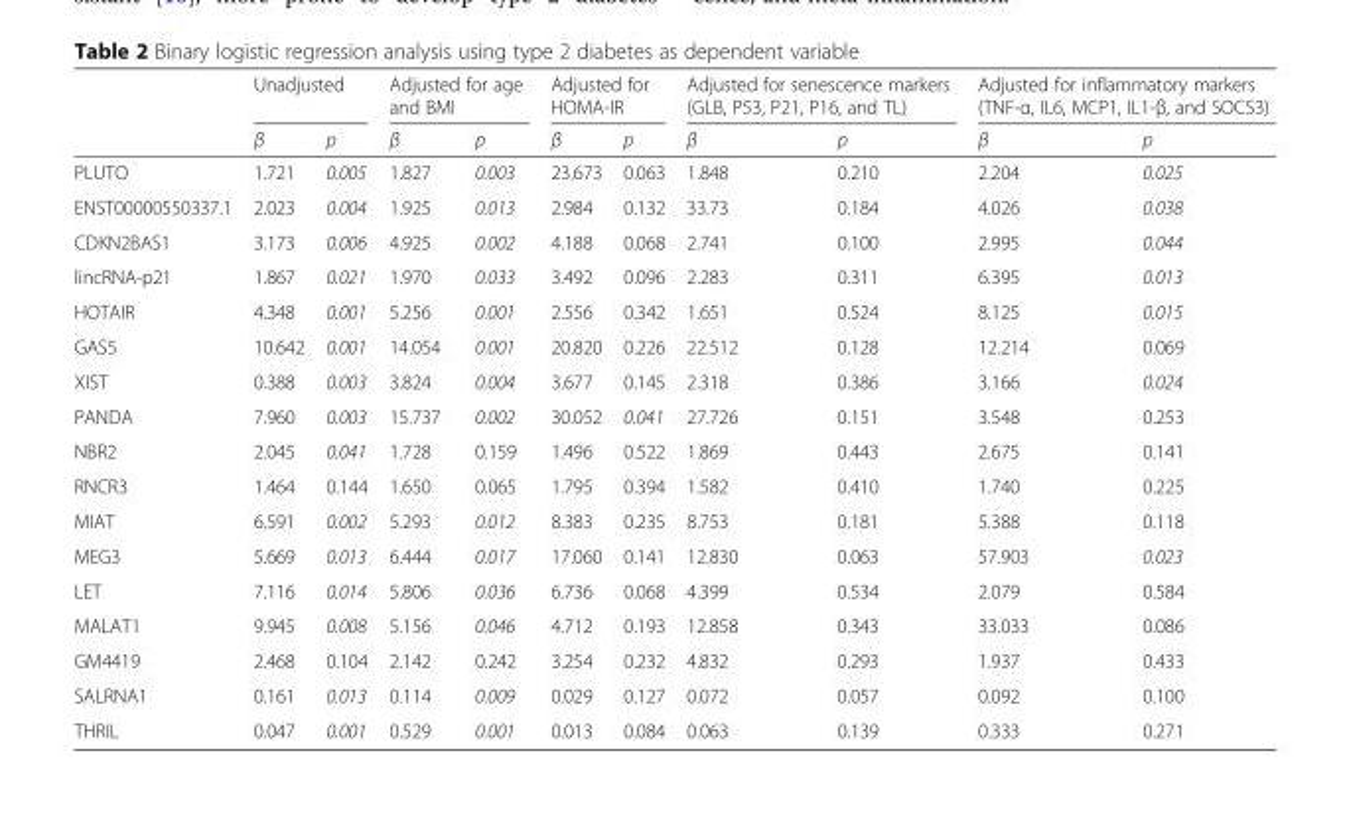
<table><thead><tr><td rowspan="2"></td><td colspan="2">Unadjusted</td><td colspan="2">Adjusted for age and BMI</td><td colspan="2">Adjusted for HOMA-IR</td><td colspan="2">Adjusted for senescence markers (GLB, P53, P21, P16, and TL)</td><td colspan="2">Adjusted for inflammatory markers (TNF-α, IL6, MCP1, IL1-β, and SOCS3)</td></tr><tr><td>β</td><td>p</td><td>β</td><td>p</td><td>β</td><td>p</td><td>β</td><td>p</td><td>β</td><td>p</td></tr></thead><tbody><tr><td>PLUTO</td><td>1.721</td><td>0.005</td><td>1.827</td><td>0.003</td><td>23.673</td><td>0.063</td><td>1.848</td><td>0.210</td><td>2.204</td><td>0.025</td></tr><tr><td>ENST00000550337.1</td><td>2.023</td><td>0.004</td><td>1.925</td><td>0.013</td><td>2.984</td><td>0.132</td><td>33.73</td><td>0.184</td><td>4.026</td><td>0.038</td></tr><tr><td>CDKN2BAS1</td><td>3.173</td><td>0.006</td><td>4.925</td><td>0.002</td><td>4.188</td><td>0.068</td><td>2.741</td><td>0.100</td><td>2.995</td><td>0.044</td></tr><tr><td>lincRNA-p21</td><td>1.867</td><td>0.021</td><td>1.970</td><td>0.033</td><td>3.492</td><td>0.096</td><td>2.283</td><td>0.311</td><td>6.395</td><td>0.013</td></tr><tr><td>HOTAIR</td><td>4.348</td><td>0.001</td><td>5.256</td><td>0.001</td><td>2.556</td><td>0.342</td><td>1.651</td><td>0.524</td><td>8.125</td><td>0.015</td></tr><tr><td>GAS5</td><td>10.642</td><td>0.001</td><td>14.054</td><td>0.001</td><td>20.820</td><td>0.226</td><td>22.512</td><td>0.128</td><td>12.214</td><td>0.069</td></tr><tr><td>XIST</td><td>0.388</td><td>0.003</td><td>3.824</td><td>0.004</td><td>3.677</td><td>0.145</td><td>2.318</td><td>0.386</td><td>3.166</td><td>0.024</td></tr><tr><td>PANDA</td><td>7.960</td><td>0.003</td><td>15.737</td><td>0.002</td><td>30.052</td><td>0.041</td><td>27.726</td><td>0.151</td><td>3.548</td><td>0.253</td></tr><tr><td>NBR2</td><td>2.045</td><td>0.041</td><td>1.728</td><td>0.159</td><td>1.496</td><td>0.522</td><td>1.869</td><td>0.443</td><td>2.675</td><td>0.141</td></tr><tr><td>RNCR3</td><td>1.464</td><td>0.144</td><td>1.650</td><td>0.065</td><td>1.795</td><td>0.394</td><td>1.582</td><td>0.410</td><td>1.740</td><td>0.225</td></tr><tr><td>MIAT</td><td>6.591</td><td>0.002</td><td>5.293</td><td>0.012</td><td>8.383</td><td>0.235</td><td>8.753</td><td>0.181</td><td>5.388</td><td>0.118</td></tr><tr><td>MEG3</td><td>5.669</td><td>0.013</td><td>6.444</td><td>0.017</td><td>17.060</td><td>0.141</td><td>12.830</td><td>0.063</td><td>57.903</td><td>0.023</td></tr><tr><td>LET</td><td>7.116</td><td>0.014</td><td>5.806</td><td>0.036</td><td>6.736</td><td>0.068</td><td>4.399</td><td>0.534</td><td>2.079</td><td>0.584</td></tr><tr><td>MALAT1</td><td>9.945</td><td>0.008</td><td>5.156</td><td>0.046</td><td>4.712</td><td>0.193</td><td>12.858</td><td>0.343</td><td>33.033</td><td>0.086</td></tr><tr><td>GM4419</td><td>2.468</td><td>0.104</td><td>2.142</td><td>0.242</td><td>3.254</td><td>0.232</td><td>4.832</td><td>0.293</td><td>1.937</td><td>0.433</td></tr><tr><td>SALRNA1</td><td>0.161</td><td>0.013</td><td>0.114</td><td>0.009</td><td>0.029</td><td>0.127</td><td>0.072</td><td>0.057</td><td>0.092</td><td>0.100</td></tr><tr><td>THRIL</td><td>0.047</td><td>0.001</td><td>0.529</td><td>0.001</td><td>0.013</td><td>0.084</td><td>0.063</td><td>0.139</td><td>0.333</td><td>0.271</td></tr></tbody></table>